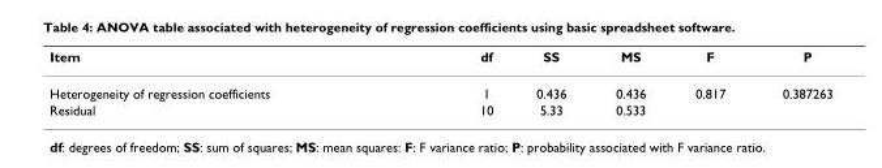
<table><thead><tr><td>Item</td><td>df</td><td>SS</td><td>MS</td><td>F</td><td>P</td></tr></thead><tbody><tr><td>Heterogeneity of regression coefficients</td><td>1</td><td>0.436</td><td>0.436</td><td>0.817</td><td>0.387263</td></tr><tr><td>Residual</td><td>10</td><td>5.33</td><td>0.533</td><td></td><td></td></tr></tbody></table>